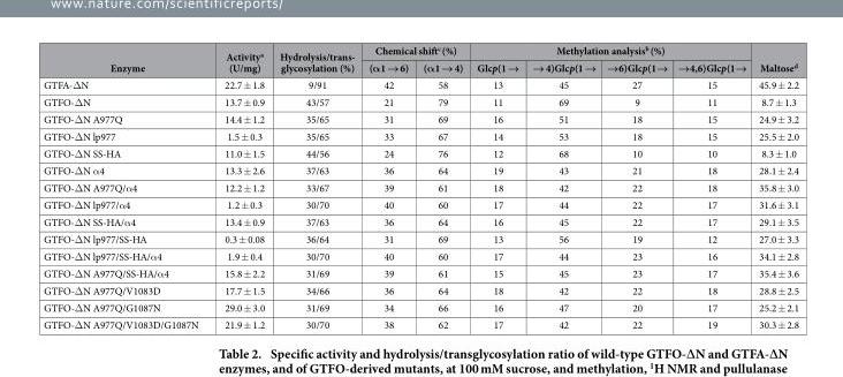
<table><thead><tr><td rowspan="2">Enzyme</td><td rowspan="2">Activity<sup>a</sup> (U/mg)</td><td rowspan="2">Hydrolysis/trans- glycosylation (%)</td><td colspan="2">Chemical shift<sup>c</sup> (%)</td><td colspan="4">Methylation analysis<sup>b</sup> (%)</td><td rowspan="2">Maltose<sup>d</sup></td></tr><tr><td>(α1 → 6)</td><td>(α1 → 4)</td><td>Glcp(1 →</td><td>→ 4)Glcp(1 →</td><td>→6)Glcp(1→</td><td>→4,6)Glcp(1→</td></tr></thead><tbody><tr><td>GTFA-Δ N</td><td>22.7 ± 1.8</td><td>9/91</td><td>42</td><td>58</td><td>13</td><td>45</td><td>27</td><td>15</td><td>45.9 ± 2.2</td></tr><tr><td>GTFO-Δ N</td><td>13.7 ± 0.9</td><td>43/57</td><td>21</td><td>79</td><td>11</td><td>69</td><td>9</td><td>11</td><td>8.7 ± 1.3</td></tr><tr><td>GTFO-Δ N A977Q</td><td>14.4 ± 1.2</td><td>35/65</td><td>31</td><td>69</td><td>16</td><td>51</td><td>18</td><td>15</td><td>24.9 ± 3.2</td></tr><tr><td>GTFO-Δ N lp977</td><td>1.5 ± 0.3</td><td>35/65</td><td>33</td><td>67</td><td>14</td><td>53</td><td>18</td><td>15</td><td>25.5 ± 2.0</td></tr><tr><td>GTFO-Δ N SS-HA</td><td>11.0 ± 1.5</td><td>44/56</td><td>24</td><td>76</td><td>12</td><td>68</td><td>10</td><td>10</td><td>8.3 ± 1.0</td></tr><tr><td>GTFO-Δ N α 4</td><td>13.3 ± 2.6</td><td>37/63</td><td>36</td><td>64</td><td>19</td><td>43</td><td>21</td><td>18</td><td>28.1 ± 2.4</td></tr><tr><td>GTFO-Δ N A977Q/α 4</td><td>12.2 ± 1.2</td><td>33/67</td><td>39</td><td>61</td><td>18</td><td>42</td><td>22</td><td>18</td><td>35.8 ± 3.0</td></tr><tr><td>GTFO-Δ N lp977/α 4</td><td>1.2 ± 0.3</td><td>30/70</td><td>40</td><td>60</td><td>17</td><td>44</td><td>22</td><td>17</td><td>31.6 ± 3.1</td></tr><tr><td>GTFO-Δ N SS-HA/α 4</td><td>13.4 ± 0.9</td><td>37/63</td><td>36</td><td>64</td><td>16</td><td>45</td><td>22</td><td>17</td><td>29.1 ± 3.5</td></tr><tr><td>GTFO-Δ N lp977/SS-HA</td><td>0.3 ± 0.08</td><td>36/64</td><td>31</td><td>69</td><td>13</td><td>56</td><td>19</td><td>12</td><td>27.0 ± 3.3</td></tr><tr><td>GTFO-Δ N lp977/SS-HA/α 4</td><td>1.9 ± 0.4</td><td>30/70</td><td>40</td><td>60</td><td>17</td><td>44</td><td>23</td><td>16</td><td>34.1 ± 2.8</td></tr><tr><td>GTFO-Δ N A977Q/SS-HA/α 4</td><td>15.8 ± 2.2</td><td>31/69</td><td>39</td><td>61</td><td>15</td><td>45</td><td>23</td><td>17</td><td>35.4 ± 3.6</td></tr><tr><td>GTFO-Δ N A977Q/V1083D</td><td>17.7 ± 1.5</td><td>34/66</td><td>36</td><td>64</td><td>18</td><td>42</td><td>22</td><td>18</td><td>28.8 ± 2.5</td></tr><tr><td>GTFO-Δ N A977Q/G1087N</td><td>29.0 ± 3.0</td><td>31/69</td><td>34</td><td>66</td><td>16</td><td>47</td><td>20</td><td>17</td><td>25.2 ± 2.1</td></tr><tr><td>GTFO-Δ N A977Q/V1083D/G1087N</td><td>21.9 ± 1.2</td><td>30/70</td><td>38</td><td>62</td><td>17</td><td>42</td><td>22</td><td>19</td><td>30.3 ± 2.8</td></tr></tbody></table>